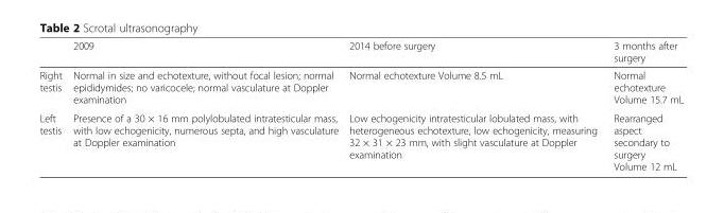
<table><thead><tr><td></td><td>2009</td><td>2014 before surgery</td><td>3 months after surgery</td></tr></thead><tbody><tr><td>Right testis</td><td>Normal in size and echotexture, without focal lesion; normal epididymides; no varicocele; normal vasculature at Doppler examination</td><td>Normal echotexture Volume 8.5 mL</td><td>Normal echotexture Volume 15.7 mL</td></tr><tr><td>Left testis</td><td>Presence of a 30 × 16 mm polylobulated intratesticular mass, with low echogenicity, numerous septa, and high vasculature at Doppler examination</td><td>Low echogenicity intratesticular lobulated mass, with heterogeneous echotexture, low echogenicity, measuring 32 × 31 × 23 mm, with slight vasculature at Doppler examination</td><td>Rearranged aspect secondary to surgery Volume 12 mL</td></tr></tbody></table>